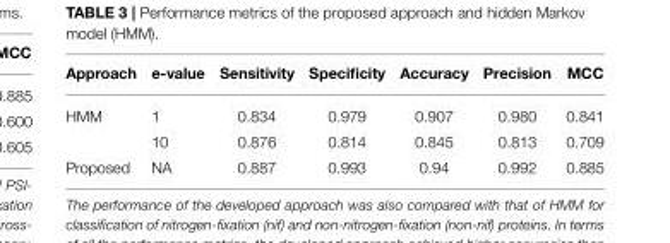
<table><thead><tr><td>Approach</td><td>e-value</td><td>Sensitivity</td><td>Specificity</td><td>Accuracy</td><td>Precision</td><td>MCC</td></tr></thead><tbody><tr><td rowspan="2">HMM</td><td>1</td><td>0.834</td><td>0.979</td><td>0.907</td><td>0.980</td><td>0.841</td></tr><tr><td>10</td><td>0.876</td><td>0.814</td><td>0.845</td><td>0.813</td><td>0.709</td></tr><tr><td>Proposed</td><td>NA</td><td>0.887</td><td>0.993</td><td>0.94</td><td>0.992</td><td>0.885</td></tr></tbody></table>